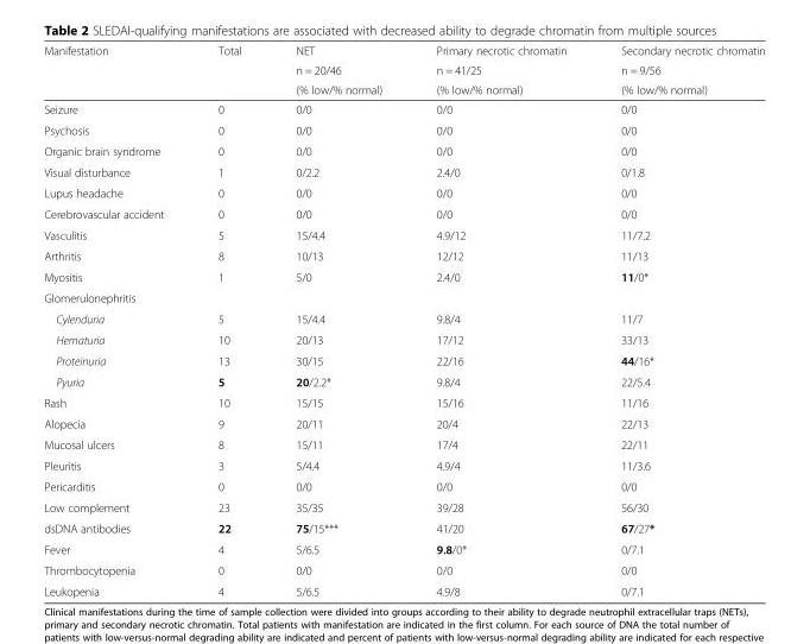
<table><thead><tr><td rowspan="3">Manifestation</td><td rowspan="3">Total</td><td rowspan="3">NET n = 20/46 (% low/% normal)</td><td rowspan="3">Primary necrotic chromatin n = 41/25 (% low/% normal)</td><td rowspan="3">Secondary necrotic chromatin n = 9/56 (% low/% normal)</td></tr><tr></tr><tr></tr></thead><tbody><tr><td>Seizure</td><td>0</td><td>0/0</td><td>0/0</td><td>0/0</td></tr><tr><td>Psychosis</td><td>0</td><td>0/0</td><td>0/0</td><td>0/0</td></tr><tr><td>Organic brain syndrome</td><td>0</td><td>0/0</td><td>0/0</td><td>0/0</td></tr><tr><td>Visual disturbance</td><td>1</td><td>0/2.2</td><td>2.4/0</td><td>0/1.8</td></tr><tr><td>Lupus headache</td><td>0</td><td>0/0</td><td>0/0</td><td>0/0</td></tr><tr><td>Cerebrovascular accident</td><td>0</td><td>0/0</td><td>0/0</td><td>0/0</td></tr><tr><td>Vasculitis</td><td>5</td><td>15/4.4</td><td>4.9/12</td><td>11/7.2</td></tr><tr><td>Arthritis</td><td>8</td><td>10/13</td><td>12/12</td><td>11/13</td></tr><tr><td>Myositis</td><td>1</td><td>5/0</td><td>2.4/0</td><td>11/0*</td></tr><tr><td colspan="5">Glomerulonephritis</td></tr><tr><td>Cylenduria</td><td>5</td><td>15/4.4</td><td>9.8/4</td><td>11/7</td></tr><tr><td>Hematuria</td><td>10</td><td>20/13</td><td>17/12</td><td>33/13</td></tr><tr><td>Proteinuria</td><td>13</td><td>30/15</td><td>22/16</td><td>44/16*</td></tr><tr><td>Pyuria</td><td>5</td><td>20/2.2*</td><td>9.8/4</td><td>22/5.4</td></tr><tr><td>Rash</td><td>10</td><td>15/15</td><td>15/16</td><td>11/16</td></tr><tr><td>Alopecia</td><td>9</td><td>20/11</td><td>20/4</td><td>22/13</td></tr><tr><td>Mucosal ulcers</td><td>8</td><td>15/11</td><td>17/4</td><td>22/11</td></tr><tr><td>Pleuritis</td><td>3</td><td>5/4.4</td><td>4.9/4</td><td>11/3.6</td></tr><tr><td>Pericarditis</td><td>0</td><td>0/0</td><td>0/0</td><td>0/0</td></tr><tr><td>Low complement</td><td>23</td><td>35/35</td><td>39/28</td><td>56/30</td></tr><tr><td>dsDNA antibodies</td><td>22</td><td>75/15***</td><td>41/20</td><td>67/27*</td></tr><tr><td>Fever</td><td>4</td><td>5/6.5</td><td>9.8/0*</td><td>0/7.1</td></tr><tr><td>Thrombocytopenia</td><td>0</td><td>0/0</td><td>0/0</td><td>0/0</td></tr><tr><td>Leukopenia</td><td>4</td><td>5/6.5</td><td>4.9/8</td><td>0/7.1</td></tr></tbody></table>